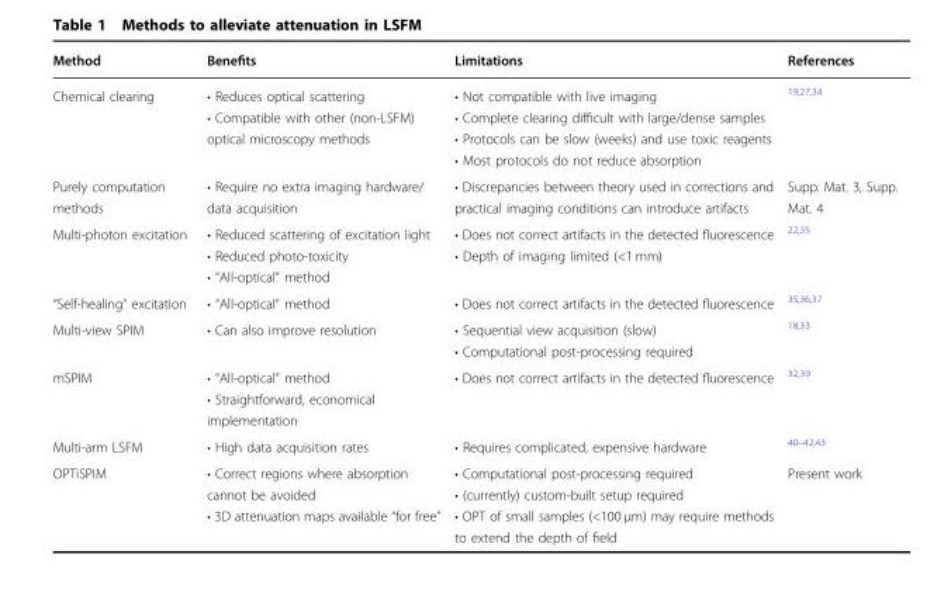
<table><thead><tr><td>Method</td><td>Benefits</td><td>Limitations</td><td>References</td></tr></thead><tbody><tr><td>Chemical clearing</td><td>• Reduces optical scattering • Compatible with other (non-LSFM) optical microscopy methods</td><td>• Not compatible with live imaging • Complete clearing difficult with large/dense samples • Protocols can be slow (weeks) and use toxic reagents • Most protocols do not reduce absorption</td><td><sup>19,27,34</sup></td></tr><tr><td>Purely computation methods</td><td>• Require no extra imaging hardware/ data acquisition</td><td>• Discrepancies between theory used in corrections and practical imaging conditions can introduce artifacts</td><td>Supp. Mat. 3, Supp. Mat. 4</td></tr><tr><td>Multi-photon excitation</td><td>• Reduced scattering of excitation light • Reduced photo-toxicity • “All-optical” method</td><td>• Does not correct artifacts in the detected fluorescence • Depth of imaging limited (&lt;1 mm)</td><td><sup>22,35</sup></td></tr><tr><td>“Self-healing” excitation</td><td>• “All-optical” method</td><td>• Does not correct artifacts in the detected fluorescence</td><td><sup>35,36,37</sup></td></tr><tr><td>Multi-view SPIM</td><td>• Can also improve resolution</td><td>• Sequential view acquisition (slow) • Computational post-processing required</td><td><sup>18,33</sup></td></tr><tr><td>mSPIM</td><td>• “All-optical” method • Straightforward, economical implementation</td><td>• Does not correct artifacts in the detected fluorescence</td><td><sup>32,39</sup></td></tr><tr><td>Multi-arm LSFM</td><td>• High data acquisition rates</td><td>• Requires complicated, expensive hardware</td><td><sup>40–42,43</sup></td></tr><tr><td>OPTiSPIM</td><td>• Correct regions where absorption cannot be avoided • 3D attenuation maps available “for free”</td><td>• Computational post-processing required • (currently) custom-built setup required • OPT of small samples (&lt;100 µm) may require methods to extend the depth of field</td><td>Present work</td></tr></tbody></table>